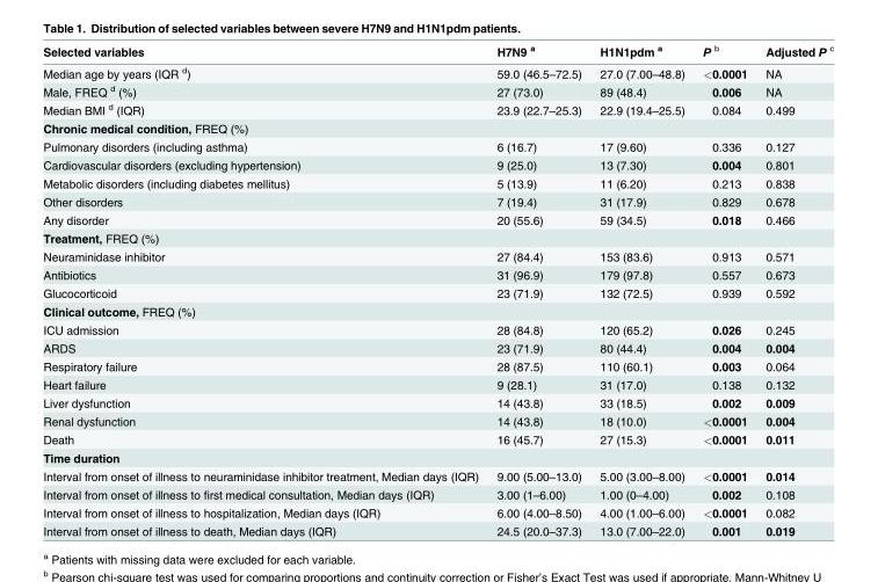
<table><thead><tr><td>Selected variables</td><td>H7N9 <sup>a</sup></td><td>H1N1pdm <sup>a</sup></td><td>P <sup>b</sup></td><td>Adjusted P <sup>c</sup></td></tr></thead><tbody><tr><td>Median age by years (IQR <sup>d</sup>)</td><td>59.0 (46.5–72.5)</td><td>27.0 (7.00–48.8)</td><td>&lt;0.0001</td><td>NA</td></tr><tr><td>Male, FREQ <sup>d</sup> (%)</td><td>27 (73.0)</td><td>89 (48.4)</td><td>0.006</td><td>NA</td></tr><tr><td>Median BMI <sup>d</sup> (IQR)</td><td>23.9 (22.7–25.3)</td><td>22.9 (19.4–25.5)</td><td>0.084</td><td>0.499</td></tr><tr><td colspan="5">Chronic medical condition, FREQ (%)</td></tr><tr><td>Pulmonary disorders (including asthma)</td><td>6 (16.7)</td><td>17 (9.60)</td><td>0.336</td><td>0.127</td></tr><tr><td>Cardiovascular disorders (excluding hypertension)</td><td>9 (25.0)</td><td>13 (7.30)</td><td>0.004</td><td>0.801</td></tr><tr><td>Metabolic disorders (including diabetes mellitus)</td><td>5 (13.9)</td><td>11 (6.20)</td><td>0.213</td><td>0.838</td></tr><tr><td>Other disorders</td><td>7 (19.4)</td><td>31 (17.9)</td><td>0.829</td><td>0.678</td></tr><tr><td>Any disorder</td><td>20 (55.6)</td><td>59 (34.5)</td><td>0.018</td><td>0.466</td></tr><tr><td colspan="5">Treatment, FREQ (%)</td></tr><tr><td>Neuraminidase inhibitor</td><td>27 (84.4)</td><td>153 (83.6)</td><td>0.913</td><td>0.571</td></tr><tr><td>Antibiotics</td><td>31 (96.9)</td><td>179 (97.8)</td><td>0.557</td><td>0.673</td></tr><tr><td>Glucocorticoid</td><td>23 (71.9)</td><td>132 (72.5)</td><td>0.939</td><td>0.592</td></tr><tr><td colspan="5">Clinical outcome, FREQ (%)</td></tr><tr><td>ICU admission</td><td>28 (84.8)</td><td>120 (65.2)</td><td>0.026</td><td>0.245</td></tr><tr><td>ARDS</td><td>23 (71.9)</td><td>80 (44.4)</td><td>0.004</td><td>0.004</td></tr><tr><td>Respiratory failure</td><td>28 (87.5)</td><td>110 (60.1)</td><td>0.003</td><td>0.064</td></tr><tr><td>Heart failure</td><td>9 (28.1)</td><td>31 (17.0)</td><td>0.138</td><td>0.132</td></tr><tr><td>Liver dysfunction</td><td>14 (43.8)</td><td>33 (18.5)</td><td>0.002</td><td>0.009</td></tr><tr><td>Renal dysfunction</td><td>14 (43.8)</td><td>18 (10.0)</td><td>&lt;0.0001</td><td>0.004</td></tr><tr><td>Death</td><td>16 (45.7)</td><td>27 (15.3)</td><td>&lt;0.0001</td><td>0.011</td></tr><tr><td colspan="5">Time duration</td></tr><tr><td>Interval from onset of illness to neuraminidase inhibitor treatment, Median days (IQR)</td><td>9.00 (5.00–13.0)</td><td>5.00 (3.00–8.00)</td><td>&lt;0.0001</td><td>0.014</td></tr><tr><td>Interval from onset of illness to first medical consultation, Median days (IQR)</td><td>3.00 (1–6.00)</td><td>1.00 (0–4.00)</td><td>0.002</td><td>0.108</td></tr><tr><td>Interval from onset of illness to hospitalization, Median days (IQR)</td><td>6.00 (4.00–8.50)</td><td>4.00 (1.00–6.00)</td><td>&lt;0.0001</td><td>0.082</td></tr><tr><td>Interval from onset of illness to death, Median days (IQR)</td><td>24.5 (20.0–37.3)</td><td>13.0 (7.00–22.0)</td><td>0.001</td><td>0.019</td></tr></tbody></table>